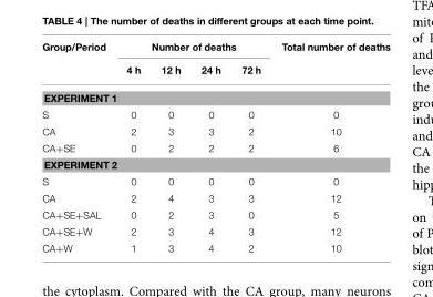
<table><thead><tr><td rowspan="2">Group/Period</td><td colspan="4">Number of deaths</td><td rowspan="2">Total number of deaths</td></tr><tr><td>4 h</td><td>12 h</td><td>24 h</td><td>72 h</td></tr></thead><tbody><tr><td colspan="6">EXPERIMENT 1</td></tr><tr><td>S</td><td>0</td><td>0</td><td>0</td><td>0</td><td>0</td></tr><tr><td>CA</td><td>2</td><td>3</td><td>3</td><td>2</td><td>10</td></tr><tr><td>CA+SE</td><td>0</td><td>2</td><td>2</td><td>2</td><td>6</td></tr><tr><td colspan="6">EXPERIMENT 2</td></tr><tr><td>S</td><td>0</td><td>0</td><td>0</td><td>0</td><td>0</td></tr><tr><td>CA</td><td>2</td><td>4</td><td>3</td><td>3</td><td>12</td></tr><tr><td>CA+SE+SAL</td><td>0</td><td>2</td><td>3</td><td>0</td><td>5</td></tr><tr><td>CA+SE+W</td><td>2</td><td>3</td><td>4</td><td>3</td><td>12</td></tr><tr><td>CA+W</td><td>1</td><td>3</td><td>4</td><td>2</td><td>10</td></tr></tbody></table>